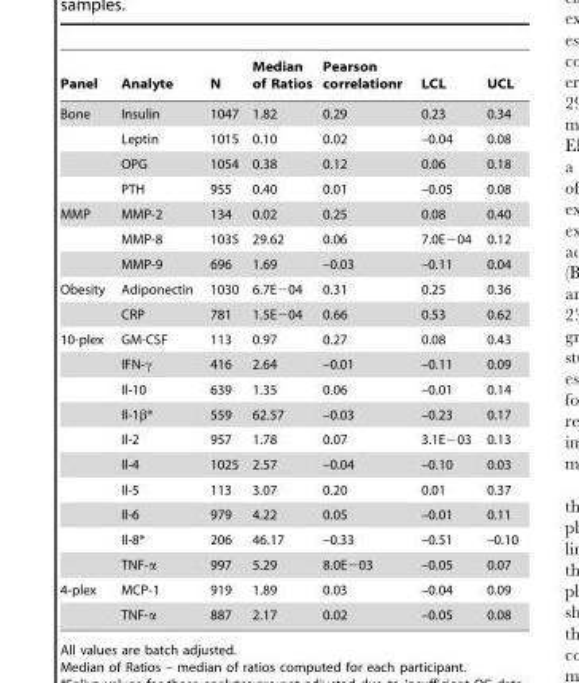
<table><thead><tr><td>Panel</td><td>Analyte</td><td>N</td><td>Median of Ratios</td><td>Pearson correlationr</td><td>LCL</td><td>UCL</td></tr></thead><tbody><tr><td rowspan="4">Bone</td><td>Insulin</td><td>1047</td><td>1.82</td><td>0.29</td><td>0.23</td><td>0.34</td></tr><tr><td>Leptin</td><td>1015</td><td>0.10</td><td>0.02</td><td>–0.04</td><td>0.08</td></tr><tr><td>OPG</td><td>1054</td><td>0.38</td><td>0.12</td><td>0.06</td><td>0.18</td></tr><tr><td>PTH</td><td>955</td><td>0.40</td><td>0.01</td><td>–0.05</td><td>0.08</td></tr><tr><td rowspan="3">MMP</td><td>MMP-2</td><td>134</td><td>0.02</td><td>0.25</td><td>0.08</td><td>0.40</td></tr><tr><td>MMP-8</td><td>1035</td><td>29.62</td><td>0.06</td><td>7.0E−04</td><td>0.12</td></tr><tr><td>MMP-9</td><td>696</td><td>1.69</td><td>–0.03</td><td>–0.11</td><td>0.04</td></tr><tr><td rowspan="2">Obesity</td><td>Adiponectin</td><td>1030</td><td>6.7E−04</td><td>0.31</td><td>0.25</td><td>0.36</td></tr><tr><td>CRP</td><td>781</td><td>1.5E−04</td><td>0.66</td><td>0.53</td><td>0.62</td></tr><tr><td rowspan="10">10-plex</td><td>GM-CSF</td><td>113</td><td>0.97</td><td>0.27</td><td>0.08</td><td>0.43</td></tr><tr><td>IFN-γ</td><td>416</td><td>2.64</td><td>–0.01</td><td>–0.11</td><td>0.09</td></tr><tr><td>Il-10</td><td>639</td><td>1.35</td><td>0.06</td><td>–0.01</td><td>0.14</td></tr><tr><td>Il-1β*</td><td>559</td><td>62.57</td><td>–0.03</td><td>–0.23</td><td>0.17</td></tr><tr><td>Il-2</td><td>957</td><td>1.78</td><td>0.07</td><td>3.1E−03</td><td>0.13</td></tr><tr><td>Il-4</td><td>1025</td><td>2.57</td><td>–0.04</td><td>–0.10</td><td>0.03</td></tr><tr><td>Il-5</td><td>113</td><td>3.07</td><td>0.20</td><td>0.01</td><td>0.37</td></tr><tr><td>Il-6</td><td>979</td><td>4.22</td><td>0.05</td><td>–0.01</td><td>0.11</td></tr><tr><td>Il-8*</td><td>206</td><td>46.17</td><td>–0.33</td><td>–0.51</td><td>–0.10</td></tr><tr><td>TNF-α</td><td>997</td><td>5.29</td><td>8.0E−03</td><td>–0.05</td><td>0.07</td></tr><tr><td rowspan="2">4-plex</td><td>MCP-1</td><td>919</td><td>1.89</td><td>0.03</td><td>–0.04</td><td>0.09</td></tr><tr><td>TNF-α</td><td>887</td><td>2.17</td><td>0.02</td><td>–0.05</td><td>0.08</td></tr></tbody></table>